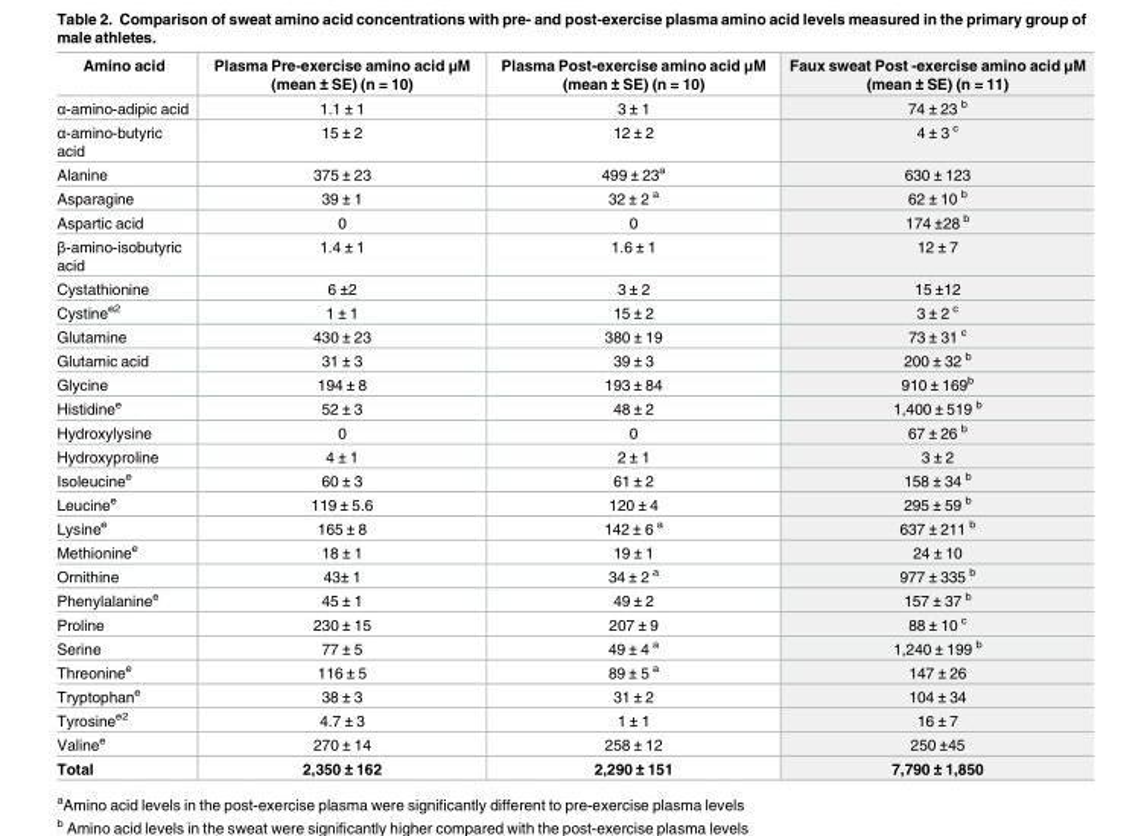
<table><thead><tr><td>Amino acid</td><td>Plasma Pre-exercise amino acid μM (mean ± SE) (n = 10)</td><td>Plasma Post-exercise amino acid μM (mean ± SE) (n = 10)</td><td>Faux sweat Post -exercise amino acid μM (mean ± SE) (n = 11)</td></tr></thead><tbody><tr><td>α-amino-adipic acid</td><td>1.1 ± 1</td><td>3 ± 1</td><td>74 ± 23 <sup>b</sup></td></tr><tr><td>α-amino-butyric acid</td><td>15 ± 2</td><td>12 ± 2</td><td>4 ± 3 <sup>c</sup></td></tr><tr><td>Alanine</td><td>375 ± 23</td><td>499 ± 23<sup>a</sup></td><td>630 ± 123</td></tr><tr><td>Asparagine</td><td>39 ± 1</td><td>32 ± 2 <sup>a</sup></td><td>62 ± 10 <sup>b</sup></td></tr><tr><td>Aspartic acid</td><td>0</td><td>0</td><td>174 ±28 <sup>b</sup></td></tr><tr><td>β-amino-isobutyric acid</td><td>1.4 ± 1</td><td>1.6 ± 1</td><td>12 ± 7</td></tr><tr><td>Cystathionine</td><td>6 ±2</td><td>3 ± 2</td><td>15 ±12</td></tr><tr><td>Cystine<sup>e2</sup></td><td>1 ± 1</td><td>15 ± 2</td><td>3 ± 2 <sup>c</sup></td></tr><tr><td>Glutamine</td><td>430 ± 23</td><td>380 ± 19</td><td>73 ± 31 <sup>c</sup></td></tr><tr><td>Glutamic acid</td><td>31 ± 3</td><td>39 ± 3</td><td>200 ± 32 <sup>b</sup></td></tr><tr><td>Glycine</td><td>194 ± 8</td><td>193 ± 84</td><td>910 ± 169<sup>b</sup></td></tr><tr><td>Histidine<sup>e</sup></td><td>52 ± 3</td><td>48 ± 2</td><td>1,400 ± 519 <sup>b</sup></td></tr><tr><td>Hydroxylysine</td><td>0</td><td>0</td><td>67 ± 26 <sup>b</sup></td></tr><tr><td>Hydroxyproline</td><td>4 ± 1</td><td>2 ± 1</td><td>3 ± 2</td></tr><tr><td>Isoleucine<sup>e</sup></td><td>60 ± 3</td><td>61 ± 2</td><td>158 ± 34 <sup>b</sup></td></tr><tr><td>Leucine<sup>e</sup></td><td>119 ± 5.6</td><td>120 ± 4</td><td>295 ± 59 <sup>b</sup></td></tr><tr><td>Lysine<sup>e</sup></td><td>165 ± 8</td><td>142 ± 6 <sup>a</sup></td><td>637 ± 211 <sup>b</sup></td></tr><tr><td>Methionine<sup>e</sup></td><td>18 ± 1</td><td>19 ± 1</td><td>24 ± 10</td></tr><tr><td>Ornithine</td><td>43± 1</td><td>34 ± 2 <sup>a</sup></td><td>977 ± 335 <sup>b</sup></td></tr><tr><td>Phenylalanine<sup>e</sup></td><td>45 ± 1</td><td>49 ± 2</td><td>157 ± 37 <sup>b</sup></td></tr><tr><td>Proline</td><td>230 ± 15</td><td>207 ± 9</td><td>88 ± 10 <sup>c</sup></td></tr><tr><td>Serine</td><td>77 ± 5</td><td>49 ± 4 <sup>a</sup></td><td>1,240 ± 199 <sup>b</sup></td></tr><tr><td>Threonine<sup>e</sup></td><td>116 ± 5</td><td>89 ± 5 <sup>a</sup></td><td>147 ± 26</td></tr><tr><td>Tryptophan<sup>e</sup></td><td>38 ± 3</td><td>31 ± 2</td><td>104 ± 34</td></tr><tr><td>Tyrosine<sup>e2</sup></td><td>4.7 ± 3</td><td>1 ± 1</td><td>16 ± 7</td></tr><tr><td>Valine<sup>e</sup></td><td>270 ± 14</td><td>258 ± 12</td><td>250 ±45</td></tr><tr><td>Total</td><td>2,350 ± 162</td><td>2,290 ± 151</td><td>7,790 ± 1,850</td></tr></tbody></table>